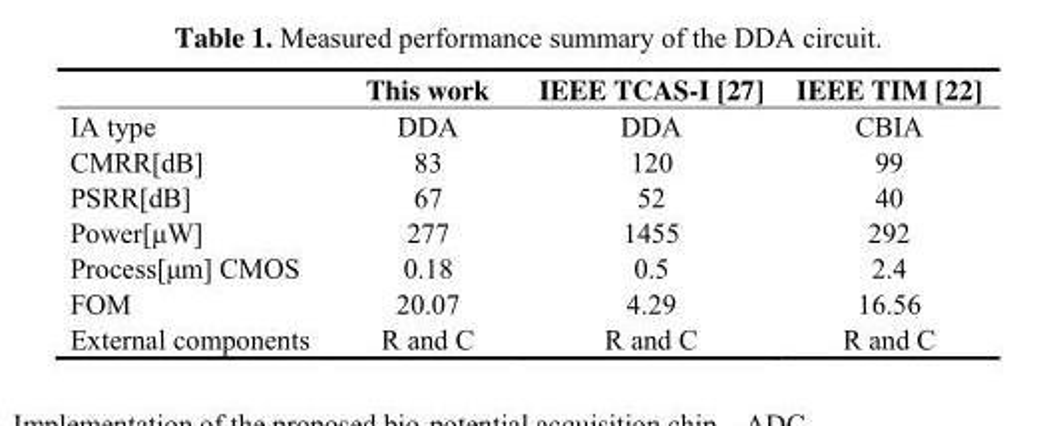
<table><thead><tr><td></td><td>This work</td><td>IEEE TCAS-I [27]</td><td>IEEE TIM [22]</td></tr></thead><tbody><tr><td>IA type</td><td>DDA</td><td>DDA</td><td>CBIA</td></tr><tr><td>CMRR[dB]</td><td>83</td><td>120</td><td>99</td></tr><tr><td>PSRR[dB]</td><td>67</td><td>52</td><td>40</td></tr><tr><td>Power[μW]</td><td>277</td><td>1455</td><td>292</td></tr><tr><td>Process[μm] CMOS</td><td>0.18</td><td>0.5</td><td>2.4</td></tr><tr><td>FOM</td><td>20.07</td><td>4.29</td><td>16.56</td></tr><tr><td>External components</td><td>R and C</td><td>R and C</td><td>R and C</td></tr></tbody></table>